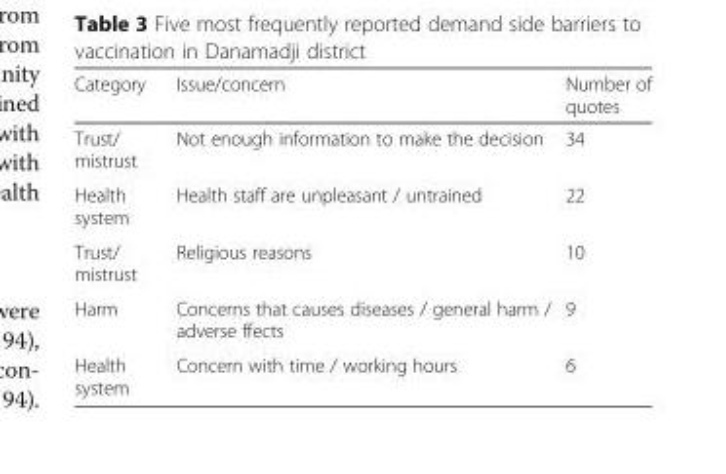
<table><thead><tr><td>Category</td><td>Issue/concern</td><td>Number of quotes</td></tr></thead><tbody><tr><td>Trust/ mistrust</td><td>Not enough information to make the decision</td><td>34</td></tr><tr><td>Health system</td><td>Health staff are unpleasant / untrained</td><td>22</td></tr><tr><td>Trust/ mistrust</td><td>Religious reasons</td><td>10</td></tr><tr><td>Harm</td><td>Concerns that causes diseases / general harm / adverse ffects</td><td>9</td></tr><tr><td>Health system</td><td>Concern with time / working hours</td><td>6</td></tr></tbody></table>